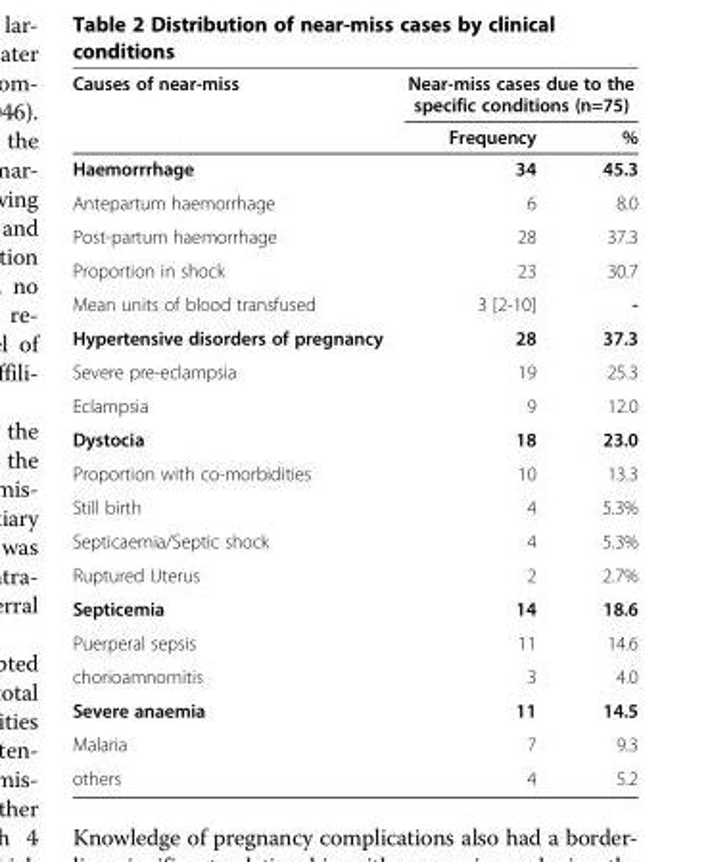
<table><thead><tr><td rowspan="2">Causes of near-miss</td><td colspan="2">Near-miss cases due to the specific conditions (n=75)</td></tr><tr><td>Frequency</td><td>%</td></tr></thead><tbody><tr><td>Haemorrrhage</td><td>34</td><td>45.3</td></tr><tr><td>Antepartum haemorrhage</td><td>6</td><td>8.0</td></tr><tr><td>Post-partum haemorrhage</td><td>28</td><td>37.3</td></tr><tr><td>Proportion in shock</td><td>23</td><td>30.7</td></tr><tr><td>Mean units of blood transfused</td><td>3 [2-10]</td><td>-</td></tr><tr><td>Hypertensive disorders of pregnancy</td><td>28</td><td>37.3</td></tr><tr><td>Severe pre-eclampsia</td><td>19</td><td>25.3</td></tr><tr><td>Eclampsia</td><td>9</td><td>12.0</td></tr><tr><td>Dystocia</td><td>18</td><td>23.0</td></tr><tr><td>Proportion with co-morbidities</td><td>10</td><td>13.3</td></tr><tr><td>Still birth</td><td>4</td><td>5.3%</td></tr><tr><td>Septicaemia/Septic shock</td><td>4</td><td>5.3%</td></tr><tr><td>Ruptured Uterus</td><td>2</td><td>2.7%</td></tr><tr><td>Septicemia</td><td>14</td><td>18.6</td></tr><tr><td>Puerperal sepsis</td><td>11</td><td>14.6</td></tr><tr><td>chorioamnomitis</td><td>3</td><td>4.0</td></tr><tr><td>Severe anaemia</td><td>11</td><td>14.5</td></tr><tr><td>Malaria</td><td>7</td><td>9.3</td></tr><tr><td>others</td><td>4</td><td>5.2</td></tr></tbody></table>